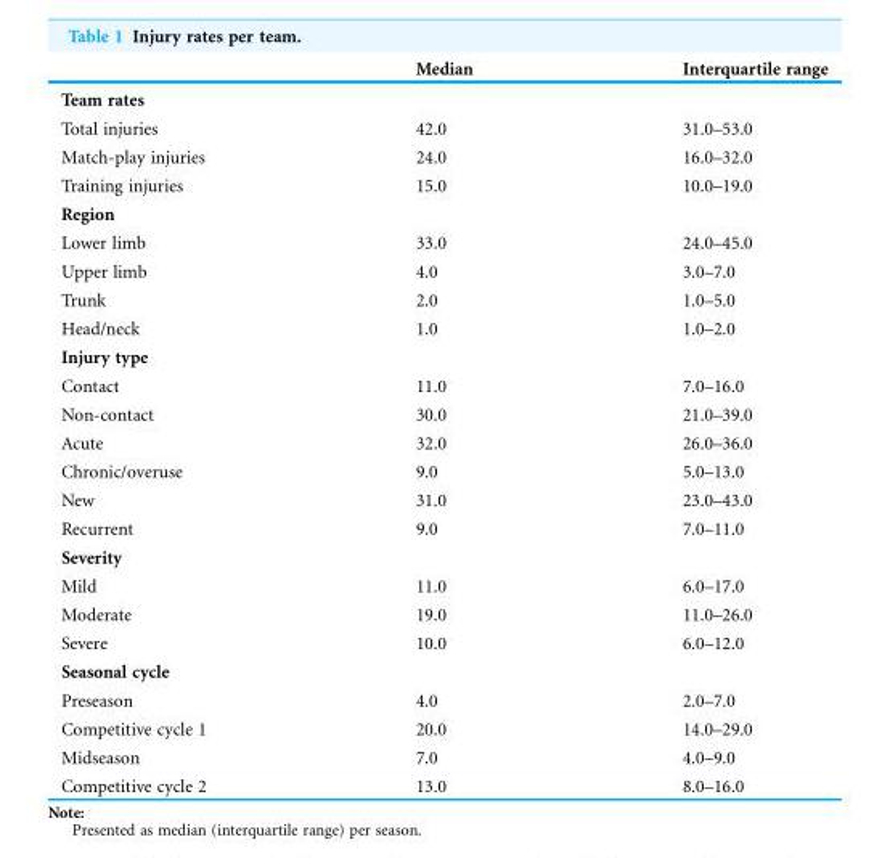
<table><thead><tr><td></td><td>Median</td><td>Interquartile range</td></tr></thead><tbody><tr><td colspan="3">Team rates</td></tr><tr><td>Total injuries</td><td>42.0</td><td>31.0–53.0</td></tr><tr><td>Match-play injuries</td><td>24.0</td><td>16.0–32.0</td></tr><tr><td>Training injuries</td><td>15.0</td><td>10.0–19.0</td></tr><tr><td colspan="3">Region</td></tr><tr><td>Lower limb</td><td>33.0</td><td>24.0–45.0</td></tr><tr><td>Upper limb</td><td>4.0</td><td>3.0–7.0</td></tr><tr><td>Trunk</td><td>2.0</td><td>1.0–5.0</td></tr><tr><td>Head/neck</td><td>1.0</td><td>1.0–2.0</td></tr><tr><td colspan="3">Injury type</td></tr><tr><td>Contact</td><td>11.0</td><td>7.0–16.0</td></tr><tr><td>Non-contact</td><td>30.0</td><td>21.0–39.0</td></tr><tr><td>Acute</td><td>32.0</td><td>26.0–36.0</td></tr><tr><td>Chronic/overuse</td><td>9.0</td><td>5.0–13.0</td></tr><tr><td>New</td><td>31.0</td><td>23.0–43.0</td></tr><tr><td>Recurrent</td><td>9.0</td><td>7.0–11.0</td></tr><tr><td colspan="3">Severity</td></tr><tr><td>Mild</td><td>11.0</td><td>6.0–17.0</td></tr><tr><td>Moderate</td><td>19.0</td><td>11.0–26.0</td></tr><tr><td>Severe</td><td>10.0</td><td>6.0–12.0</td></tr><tr><td colspan="3">Seasonal cycle</td></tr><tr><td>Preseason</td><td>4.0</td><td>2.0–7.0</td></tr><tr><td>Competitive cycle 1</td><td>20.0</td><td>14.0–29.0</td></tr><tr><td>Midseason</td><td>7.0</td><td>4.0–9.0</td></tr><tr><td>Competitive cycle 2</td><td>13.0</td><td>8.0–16.0</td></tr></tbody></table>